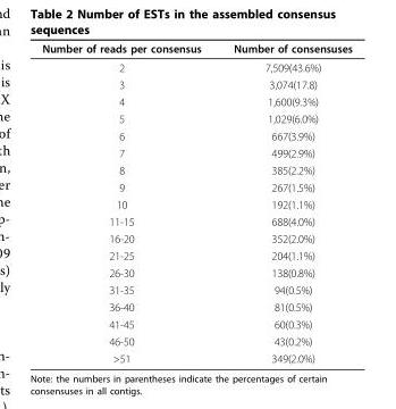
<table><thead><tr><td>Number of reads per consensus</td><td>Number of consensuses</td></tr></thead><tbody><tr><td>2</td><td>7,509(43.6%)</td></tr><tr><td>3</td><td>3,074(17.8)</td></tr><tr><td>4</td><td>1,600(9.3%)</td></tr><tr><td>5</td><td>1,029(6.0%)</td></tr><tr><td>6</td><td>667(3.9%)</td></tr><tr><td>7</td><td>499(2.9%)</td></tr><tr><td>8</td><td>385(2.2%)</td></tr><tr><td>9</td><td>267(1.5%)</td></tr><tr><td>10</td><td>192(1.1%)</td></tr><tr><td>11-15</td><td>688(4.0%)</td></tr><tr><td>16-20</td><td>352(2.0%)</td></tr><tr><td>21-25</td><td>204(1.1%)</td></tr><tr><td>26-30</td><td>138(0.8%)</td></tr><tr><td>31-35</td><td>94(0.5%)</td></tr><tr><td>36-40</td><td>81(0.5%)</td></tr><tr><td>41-45</td><td>60(0.3%)</td></tr><tr><td>46-50</td><td>43(0.2%)</td></tr><tr><td>&gt;51</td><td>349(2.0%)</td></tr></tbody></table>